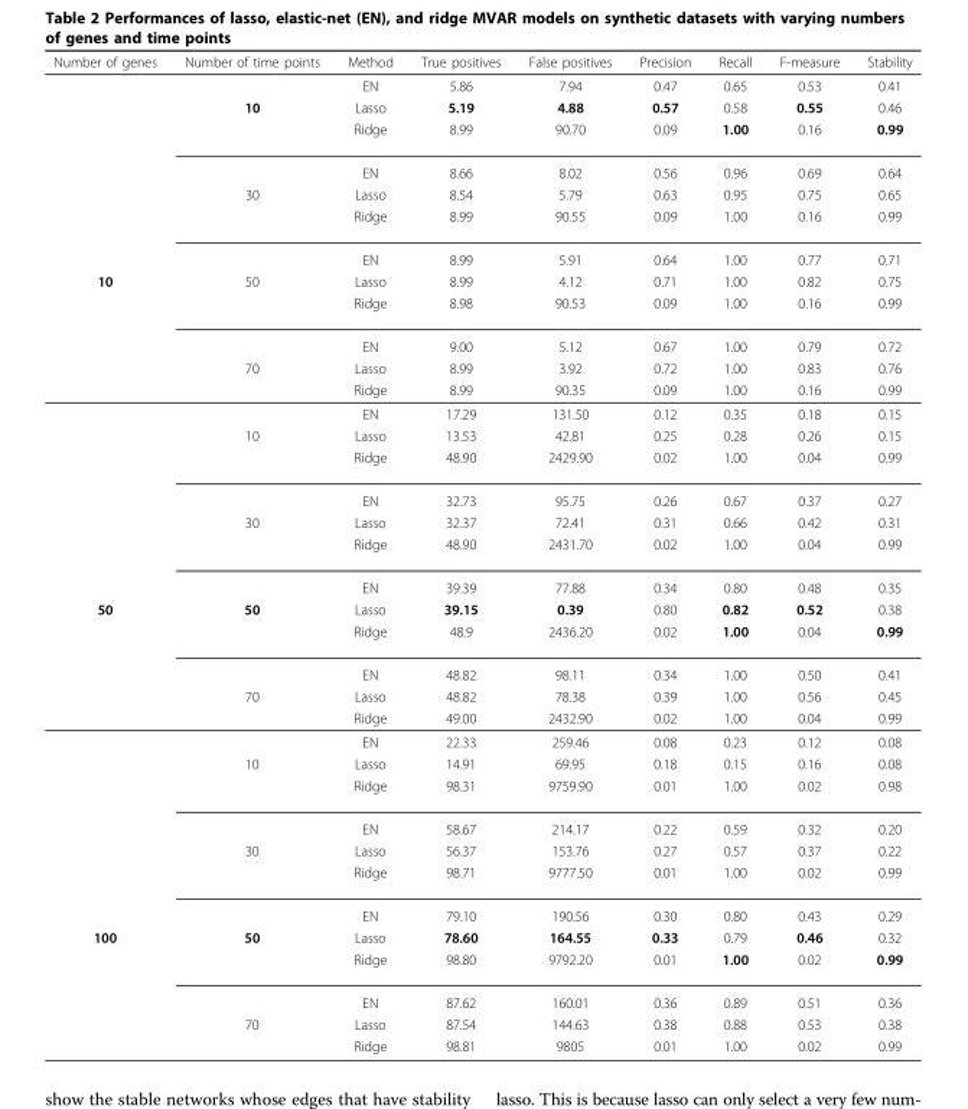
<table><thead><tr><td>Number of genes</td><td>Number of time points</td><td>Method</td><td>True positives</td><td>False positives</td><td>Precision</td><td>Recall</td><td>F-measure</td><td>Stability</td></tr></thead><tbody><tr><td></td><td></td><td>EN</td><td>5.86</td><td>7.94</td><td>0.47</td><td>0.65</td><td>0.53</td><td>0.41</td></tr><tr><td></td><td>10</td><td>Lasso</td><td>5.19</td><td>4.88</td><td>0.57</td><td>0.58</td><td>0.55</td><td>0.46</td></tr><tr><td></td><td></td><td>Ridge</td><td>8.99</td><td>90.70</td><td>0.09</td><td>1.00</td><td>0.16</td><td>0.99</td></tr><tr><td></td><td></td><td>EN</td><td>8.66</td><td>8.02</td><td>0.56</td><td>0.96</td><td>0.69</td><td>0.64</td></tr><tr><td></td><td>30</td><td>Lasso</td><td>8.54</td><td>5.79</td><td>0.63</td><td>0.95</td><td>0.75</td><td>0.65</td></tr><tr><td></td><td></td><td>Ridge</td><td>8.99</td><td>90.55</td><td>0.09</td><td>1.00</td><td>0.16</td><td>0.99</td></tr><tr><td></td><td></td><td>EN</td><td>8.99</td><td>5.91</td><td>0.64</td><td>1.00</td><td>0.77</td><td>0.71</td></tr><tr><td rowspan="12">10</td><td>50</td><td>Lasso</td><td>8.99</td><td>4.12</td><td>0.71</td><td>1.00</td><td>0.82</td><td>0.75</td></tr><tr><td></td><td>Ridge</td><td>8.98</td><td>90.53</td><td>0.09</td><td>1.00</td><td>0.16</td><td>0.99</td></tr><tr><td></td><td>EN</td><td>9.00</td><td>5.12</td><td>0.67</td><td>1.00</td><td>0.79</td><td>0.72</td></tr><tr><td>70</td><td>Lasso</td><td>8.99</td><td>3.92</td><td>0.72</td><td>1.00</td><td>0.83</td><td>0.76</td></tr><tr><td></td><td>Ridge</td><td>8.99</td><td>90.35</td><td>0.09</td><td>1.00</td><td>0.16</td><td>0.99</td></tr><tr><td></td><td>EN</td><td>17.29</td><td>131.50</td><td>0.12</td><td>0.35</td><td>0.18</td><td>0.15</td></tr><tr><td>10</td><td>Lasso</td><td>13.53</td><td>42.81</td><td>0.25</td><td>0.28</td><td>0.26</td><td>0.15</td></tr><tr><td></td><td>Ridge</td><td>48.90</td><td>2429.90</td><td>0.02</td><td>1.00</td><td>0.04</td><td>0.99</td></tr><tr><td></td><td>EN</td><td>32.73</td><td>95.75</td><td>0.26</td><td>0.67</td><td>0.37</td><td>0.27</td></tr><tr><td>30</td><td>Lasso</td><td>32.37</td><td>72.41</td><td>0.31</td><td>0.66</td><td>0.42</td><td>0.31</td></tr><tr><td></td><td>Ridge</td><td>48.90</td><td>2431.70</td><td>0.02</td><td>1.00</td><td>0.04</td><td>0.99</td></tr><tr><td></td><td>EN</td><td>39.39</td><td>77.88</td><td>0.34</td><td>0.80</td><td>0.48</td><td>0.35</td></tr><tr><td rowspan="12">50</td><td>50</td><td>Lasso</td><td>39.15</td><td>0.39</td><td>0.80</td><td>0.82</td><td>0.52</td><td>0.38</td></tr><tr><td></td><td>Ridge</td><td>48.9</td><td>2436.20</td><td>0.02</td><td>1.00</td><td>0.04</td><td>0.99</td></tr><tr><td></td><td>EN</td><td>48.82</td><td>98.11</td><td>0.34</td><td>1.00</td><td>0.50</td><td>0.41</td></tr><tr><td>70</td><td>Lasso</td><td>48.82</td><td>78.38</td><td>0.39</td><td>1.00</td><td>0.56</td><td>0.45</td></tr><tr><td></td><td>Ridge</td><td>49.00</td><td>2432.90</td><td>0.02</td><td>1.00</td><td>0.04</td><td>0.99</td></tr><tr><td></td><td>EN</td><td>22.33</td><td>259.46</td><td>0.08</td><td>0.23</td><td>0.12</td><td>0.08</td></tr><tr><td>10</td><td>Lasso</td><td>14.91</td><td>69.95</td><td>0.18</td><td>0.15</td><td>0.16</td><td>0.08</td></tr><tr><td></td><td>Ridge</td><td>98.31</td><td>9759.90</td><td>0.01</td><td>1.00</td><td>0.02</td><td>0.98</td></tr><tr><td></td><td>EN</td><td>58.67</td><td>214.17</td><td>0.22</td><td>0.59</td><td>0.32</td><td>0.20</td></tr><tr><td>30</td><td>Lasso</td><td>56.37</td><td>153.76</td><td>0.27</td><td>0.57</td><td>0.37</td><td>0.22</td></tr><tr><td></td><td>Ridge</td><td>98.71</td><td>9777.50</td><td>0.01</td><td>1.00</td><td>0.02</td><td>0.99</td></tr><tr><td></td><td>EN</td><td>79.10</td><td>190.56</td><td>0.30</td><td>0.80</td><td>0.43</td><td>0.29</td></tr><tr><td rowspan="5">100</td><td>50</td><td>Lasso</td><td>78.60</td><td>164.55</td><td>0.33</td><td>0.79</td><td>0.46</td><td>0.32</td></tr><tr><td></td><td>Ridge</td><td>98.80</td><td>9792.20</td><td>0.01</td><td>1.00</td><td>0.02</td><td>0.99</td></tr><tr><td></td><td>EN</td><td>87.62</td><td>160.01</td><td>0.36</td><td>0.89</td><td>0.51</td><td>0.36</td></tr><tr><td>70</td><td>Lasso</td><td>87.54</td><td>144.63</td><td>0.38</td><td>0.88</td><td>0.53</td><td>0.38</td></tr><tr><td></td><td>Ridge</td><td>98.81</td><td>9805</td><td>0.01</td><td>1.00</td><td>0.02</td><td>0.99</td></tr></tbody></table>